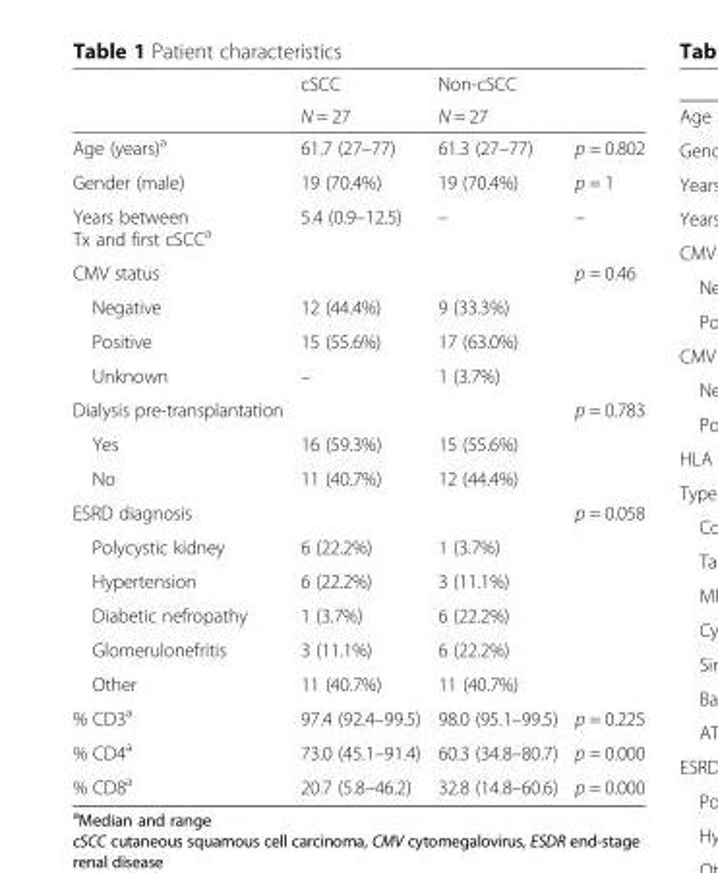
<table><thead><tr><td rowspan="2"></td><td rowspan="2">cSCC N = 27</td><td rowspan="2">Non-cSCC N = 27</td><td rowspan="2"></td></tr><tr></tr></thead><tbody><tr><td>Age (years)<sup>a</sup></td><td>61.7 (27–77)</td><td>61.3 (27–77)</td><td>p = 0.802</td></tr><tr><td>Gender (male)</td><td>19 (70.4%)</td><td>19 (70.4%)</td><td>p = 1</td></tr><tr><td>Years between Tx and first cSCC<sup>a</sup></td><td>5.4 (0.9–12.5)</td><td>–</td><td>–</td></tr><tr><td>CMV status</td><td></td><td></td><td>p = 0.46</td></tr><tr><td>Negative</td><td>12 (44.4%)</td><td>9 (33.3%)</td><td></td></tr><tr><td>Positive</td><td>15 (55.6%)</td><td>17 (63.0%)</td><td></td></tr><tr><td>Unknown</td><td>–</td><td>1 (3.7%)</td><td></td></tr><tr><td>Dialysis pre-transplantation</td><td></td><td></td><td>p = 0.783</td></tr><tr><td>Yes</td><td>16 (59.3%)</td><td>15 (55.6%)</td><td></td></tr><tr><td>No</td><td>11 (40.7%)</td><td>12 (44.4%)</td><td></td></tr><tr><td>ESRD diagnosis</td><td></td><td></td><td>p = 0.058</td></tr><tr><td>Polycystic kidney</td><td>6 (22.2%)</td><td>1 (3.7%)</td><td></td></tr><tr><td>Hypertension</td><td>6 (22.2%)</td><td>3 (11.1%)</td><td></td></tr><tr><td>Diabetic nefropathy</td><td>1 (3.7%)</td><td>6 (22.2%)</td><td></td></tr><tr><td>Glomerulonefritis</td><td>3 (11.1%)</td><td>6 (22.2%)</td><td></td></tr><tr><td>Other</td><td>11 (40.7%)</td><td>11 (40.7%)</td><td></td></tr><tr><td>% CD3<sup>a</sup></td><td>97.4 (92.4–99.5)</td><td>98.0 (95.1–99.5)</td><td>p = 0.225</td></tr><tr><td>% CD4<sup>a</sup></td><td>73.0 (45.1–91.4)</td><td>60.3 (34.8–80.7)</td><td>p = 0.000</td></tr><tr><td>% CD8<sup>a</sup></td><td>20.7 (5.8–46.2)</td><td>32.8 (14.8–60.6)</td><td>p = 0.000</td></tr></tbody></table>